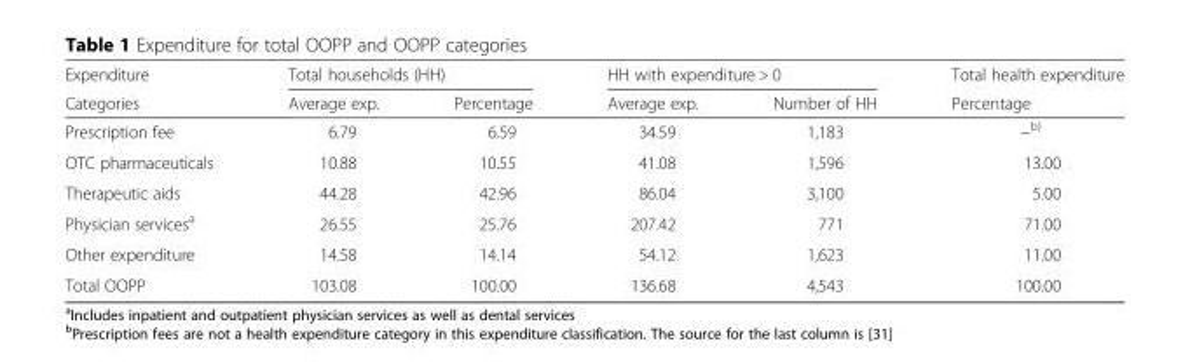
<table><thead><tr><td rowspan="2">Expenditure Categories</td><td colspan="2">Total households (HH)</td><td colspan="2">HH with expenditure &gt; 0</td><td rowspan="2">Total health expenditure Percentage</td></tr><tr><td>Average exp.</td><td>Percentage</td><td>Average exp.</td><td>Number of HH</td></tr></thead><tbody><tr><td>Prescription fee</td><td>6.79</td><td>6.59</td><td>34.59</td><td>1,183</td><td>−<sup>b)</sup></td></tr><tr><td>OTC pharmaceuticals</td><td>10.88</td><td>10.55</td><td>41.08</td><td>1,596</td><td>13.00</td></tr><tr><td>Therapeutic aids</td><td>44.28</td><td>42.96</td><td>86.04</td><td>3,100</td><td>5.00</td></tr><tr><td>Physician services<sup>a</sup></td><td>26.55</td><td>25.76</td><td>207.42</td><td>771</td><td>71.00</td></tr><tr><td>Other expenditure</td><td>14.58</td><td>14.14</td><td>54.12</td><td>1,623</td><td>11.00</td></tr><tr><td>Total OOPP</td><td>103.08</td><td>100.00</td><td>136.68</td><td>4,543</td><td>100.00</td></tr></tbody></table>